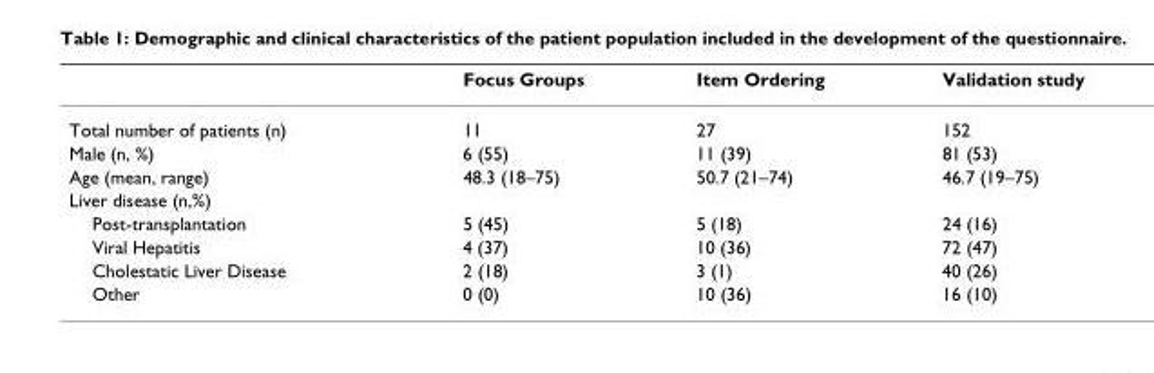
<table><thead><tr><td></td><td>Focus Groups</td><td>Item Ordering</td><td>Validation study</td></tr></thead><tbody><tr><td>Total number of patients (n)</td><td>11</td><td>27</td><td>152</td></tr><tr><td>Male (n, %)</td><td>6 (55)</td><td>11 (39)</td><td>81 (53)</td></tr><tr><td>Age (mean, range)</td><td>48.3 (18–75)</td><td>50.7 (21–74)</td><td>46.7 (19–75)</td></tr><tr><td colspan="4">Liver disease (n,%)</td></tr><tr><td>Post-transplantation</td><td>5 (45)</td><td>5 (18)</td><td>24 (16)</td></tr><tr><td>Viral Hepatitis</td><td>4 (37)</td><td>10 (36)</td><td>72 (47)</td></tr><tr><td>Cholestatic Liver Disease</td><td>2 (18)</td><td>3 (1)</td><td>40 (26)</td></tr><tr><td>Other</td><td>0 (0)</td><td>10 (36)</td><td>16 (10)</td></tr></tbody></table>